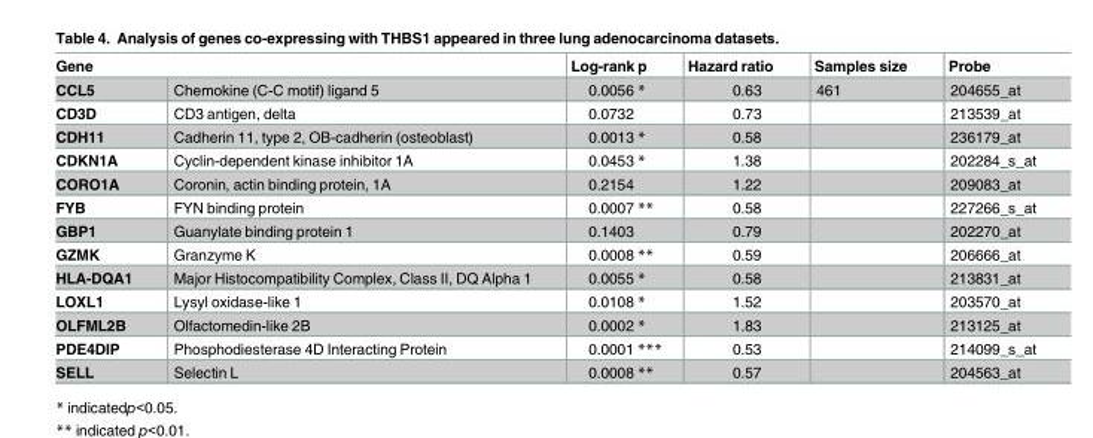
<table><thead><tr><td colspan="2">Gene</td><td rowspan="2">Log-rank p 0.0056 *</td><td rowspan="2">Hazard ratio 0.63</td><td rowspan="2">Samples size 461</td><td rowspan="2">Probe 204655_at</td></tr><tr><td>CCL5</td><td>Chemokine (C-C motif) ligand 5</td></tr></thead><tbody><tr><td>CD3D</td><td>CD3 antigen, delta</td><td>0.0732</td><td>0.73</td><td></td><td>213539_at</td></tr><tr><td>CDH11</td><td>Cadherin 11, type 2, OB-cadherin (osteoblast)</td><td>0.0013 *</td><td>0.58</td><td></td><td>236179_at</td></tr><tr><td>CDKN1A</td><td>Cyclin-dependent kinase inhibitor 1A</td><td>0.0453 *</td><td>1.38</td><td></td><td>202284_s_at</td></tr><tr><td>CORO1A</td><td>Coronin, actin binding protein, 1A</td><td>0.2154</td><td>1.22</td><td></td><td>209083_at</td></tr><tr><td>FYB</td><td>FYN binding protein</td><td>0.0007 **</td><td>0.58</td><td></td><td>227266_s_at</td></tr><tr><td>GBP1</td><td>Guanylate binding protein 1</td><td>0.1403</td><td>0.79</td><td></td><td>202270_at</td></tr><tr><td>GZMK</td><td>Granzyme K</td><td>0.0008 **</td><td>0.59</td><td></td><td>206666_at</td></tr><tr><td>HLA-DQA1</td><td>Major Histocompatibility Complex, Class II, DQ Alpha 1</td><td>0.0055 *</td><td>0.58</td><td></td><td>213831_at</td></tr><tr><td>LOXL1</td><td>Lysyl oxidase-like 1</td><td>0.0108 *</td><td>1.52</td><td></td><td>203570_at</td></tr><tr><td>OLFML2B</td><td>Olfactomedin-like 2B</td><td>0.0002 *</td><td>1.83</td><td></td><td>213125_at</td></tr><tr><td>PDE4DIP</td><td>Phosphodiesterase 4D Interacting Protein</td><td>0.0001 ***</td><td>0.53</td><td></td><td>214099_s_at</td></tr><tr><td>SELL</td><td>Selectin L</td><td>0.0008 **</td><td>0.57</td><td></td><td>204563_at</td></tr></tbody></table>